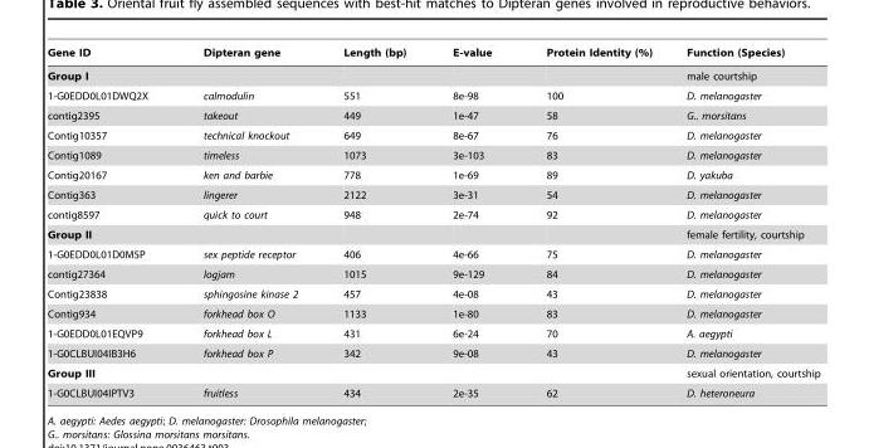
<table><thead><tr><td>Gene ID</td><td>Dipteran gene</td><td>Length (bp)</td><td>E-value</td><td>Protein Identity (%)</td><td>Function (Species)</td></tr></thead><tbody><tr><td>Group I</td><td></td><td></td><td></td><td></td><td>male courtship</td></tr><tr><td>1-G0EDD0L01DWQ2X</td><td>calmodulin</td><td>551</td><td>8e-98</td><td>100</td><td>D. melanogaster</td></tr><tr><td>contig2395</td><td>takeout</td><td>449</td><td>1e-47</td><td>58</td><td>G.. morsitans</td></tr><tr><td>Contig10357</td><td>technical knockout</td><td>649</td><td>8e-67</td><td>76</td><td>D. melanogaster</td></tr><tr><td>Contig1089</td><td>timeless</td><td>1073</td><td>3e-103</td><td>83</td><td>D. melanogaster</td></tr><tr><td>Contig20167</td><td>ken and barbie</td><td>778</td><td>1e-69</td><td>89</td><td>D. yakuba</td></tr><tr><td>Contig363</td><td>lingerer</td><td>2122</td><td>3e-31</td><td>54</td><td>D. melanogaster</td></tr><tr><td>contig8597</td><td>quick to court</td><td>948</td><td>2e-74</td><td>92</td><td>D. melanogaster</td></tr><tr><td>Group II</td><td></td><td></td><td></td><td></td><td>female fertility, courtship</td></tr><tr><td>1-G0EDD0L01D0M5P</td><td>sex peptide receptor</td><td>406</td><td>4e-66</td><td>75</td><td>D. melanogaster</td></tr><tr><td>contig27364</td><td>logjam</td><td>1015</td><td>9e-129</td><td>84</td><td>D. melanogaster</td></tr><tr><td>Contig23838</td><td>sphingosine kinase 2</td><td>457</td><td>4e-08</td><td>43</td><td>D. melanogaster</td></tr><tr><td>Contig934</td><td>forkhead box O</td><td>1133</td><td>1e-80</td><td>83</td><td>D. melanogaster</td></tr><tr><td>1-G0EDD0L01EQVP9</td><td>forkhead box L</td><td>431</td><td>6e-24</td><td>70</td><td>A. aegypti</td></tr><tr><td>1-G0CLBUI04IB3H6</td><td>forkhead box P</td><td>342</td><td>9e-08</td><td>43</td><td>D. melanogaster</td></tr><tr><td>Group III</td><td></td><td></td><td></td><td></td><td>sexual orientation, courtship</td></tr><tr><td>1-G0CLBUI04IPTV3</td><td>fruitless</td><td>434</td><td>2e-35</td><td>62</td><td>D. heteroneura</td></tr></tbody></table>